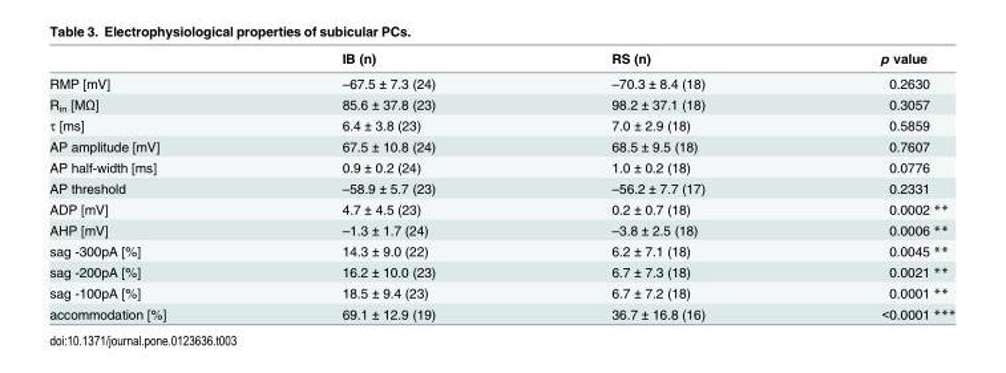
<table><thead><tr><td></td><td>IB (n)</td><td>RS (n)</td><td>p value</td></tr></thead><tbody><tr><td>RMP [mV]</td><td>–67.5 ± 7.3 (24)</td><td>–70.3 ± 8.4 (18)</td><td>0.2630</td></tr><tr><td>R<sub>in</sub> [MΩ]</td><td>85.6 ± 37.8 (23)</td><td>98.2 ± 37.1 (18)</td><td>0.3057</td></tr><tr><td>τ [ms]</td><td>6.4 ± 3.8 (23)</td><td>7.0 ± 2.9 (18)</td><td>0.5859</td></tr><tr><td>AP amplitude [mV]</td><td>67.5 ± 10.8 (24)</td><td>68.5 ± 9.5 (18)</td><td>0.7607</td></tr><tr><td>AP half-width [ms]</td><td>0.9 ± 0.2 (24)</td><td>1.0 ± 0.2 (18)</td><td>0.0776</td></tr><tr><td>AP threshold</td><td>–58.9 ± 5.7 (23)</td><td>–56.2 ± 7.7 (17)</td><td>0.2331</td></tr><tr><td>ADP [mV]</td><td>4.7 ± 4.5 (23)</td><td>0.2 ± 0.7 (18)</td><td>0.0002 **</td></tr><tr><td>AHP [mV]</td><td>–1.3 ± 1.7 (24)</td><td>–3.8 ± 2.5 (18)</td><td>0.0006 **</td></tr><tr><td>sag -300pA [%]</td><td>14.3 ± 9.0 (22)</td><td>6.2 ± 7.1 (18)</td><td>0.0045 **</td></tr><tr><td>sag -200pA [%]</td><td>16.2 ± 10.0 (23)</td><td>6.7 ± 7.3 (18)</td><td>0.0021 **</td></tr><tr><td>sag -100pA [%]</td><td>18.5 ± 9.4 (23)</td><td>6.7 ± 7.2 (18)</td><td>0.0001 **</td></tr><tr><td>accommodation [%]</td><td>69.1 ± 12.9 (19)</td><td>36.7 ± 16.8 (16)</td><td>&lt;0.0001 ***</td></tr></tbody></table>